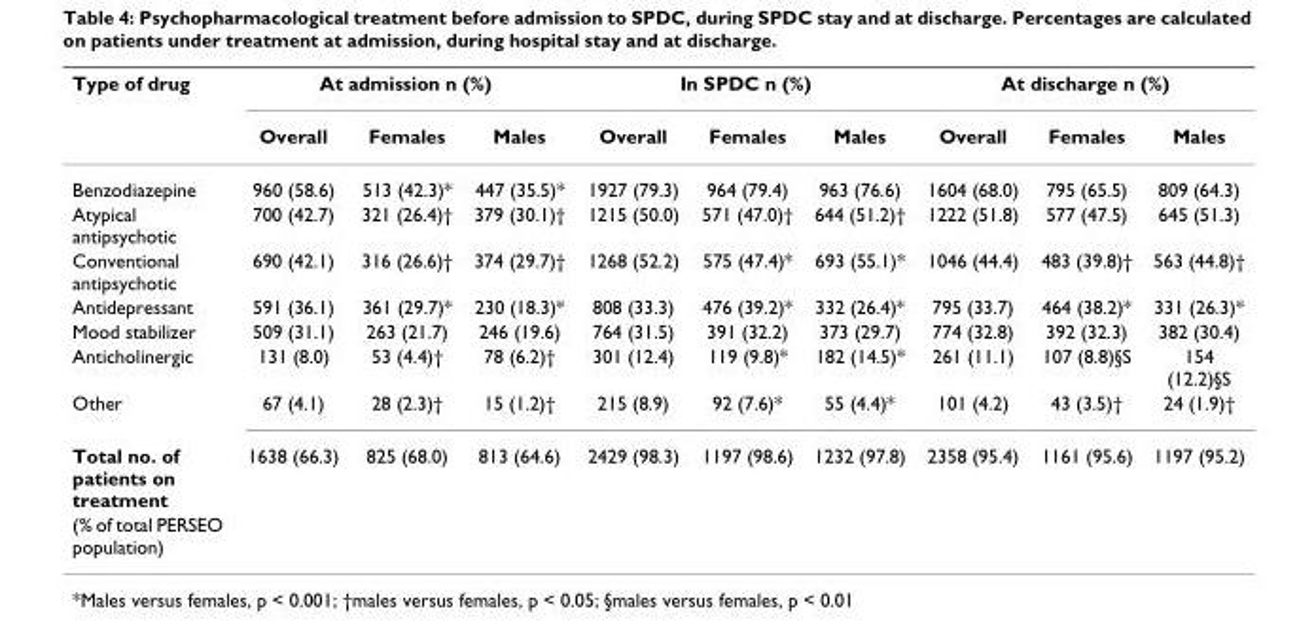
<table><thead><tr><td rowspan="2">Type of drug</td><td colspan="3">At admission n (%)</td><td colspan="3">In SPDC n (%)</td><td colspan="3">At discharge n (%)</td></tr><tr><td>Overall</td><td>Females</td><td>Males</td><td>Overall</td><td>Females</td><td>Males</td><td>Overall</td><td>Females</td><td>Males</td></tr></thead><tbody><tr><td>Benzodiazepine</td><td>960 (58.6)</td><td>513 (42.3)*</td><td>447 (35.5)*</td><td>1927 (79.3)</td><td>964 (79.4)</td><td>963 (76.6)</td><td>1604 (68.0)</td><td>795 (65.5)</td><td>809 (64.3)</td></tr><tr><td>Atypical antipsychotic</td><td>700 (42.7)</td><td>321 (26.4)†</td><td>379 (30.1)†</td><td>1215 (50.0)</td><td>571 (47.0)†</td><td>644 (51.2)†</td><td>1222 (51.8)</td><td>577 (47.5)</td><td>645 (51.3)</td></tr><tr><td>Conventional antipsychotic</td><td>690 (42.1)</td><td>316 (26.6)†</td><td>374 (29.7)†</td><td>1268 (52.2)</td><td>575 (47.4)*</td><td>693 (55.1)*</td><td>1046 (44.4)</td><td>483 (39.8)†</td><td>563 (44.8)†</td></tr><tr><td>Antidepressant</td><td>591 (36.1)</td><td>361 (29.7)*</td><td>230 (18.3)*</td><td>808 (33.3)</td><td>476 (39.2)*</td><td>332 (26.4)*</td><td>795 (33.7)</td><td>464 (38.2)*</td><td>331 (26.3)*</td></tr><tr><td>Mood stabilizer</td><td>509 (31.1)</td><td>263 (21.7)</td><td>246 (19.6)</td><td>764 (31.5)</td><td>391 (32.2)</td><td>373 (29.7)</td><td>774 (32.8)</td><td>392 (32.3)</td><td>382 (30.4)</td></tr><tr><td>Anticholinergic</td><td>131 (8.0)</td><td>53 (4.4)†</td><td>78 (6.2)†</td><td>301 (12.4)</td><td>119 (9.8)*</td><td>182 (14.5)*</td><td>261 (11.1)</td><td>107 (8.8)§S</td><td>154 (12.2)§S</td></tr><tr><td>Other</td><td>67 (4.1)</td><td>28 (2.3)†</td><td>15 (1.2)†</td><td>215 (8.9)</td><td>92 (7.6)*</td><td>55 (4.4)*</td><td>101 (4.2)</td><td>43 (3.5)†</td><td>24 (1.9)†</td></tr><tr><td>Total no. of patients on treatment</td><td>1638 (66.3)</td><td>825 (68.0)</td><td>813 (64.6)</td><td>2429 (98.3)</td><td>1197 (98.6)</td><td>1232 (97.8)</td><td>2358 (95.4)</td><td>1161 (95.6)</td><td>1197 (95.2)</td></tr><tr><td>(% of total PERSEO population)</td><td></td><td></td><td></td><td></td><td></td><td></td><td></td><td></td><td></td></tr></tbody></table>